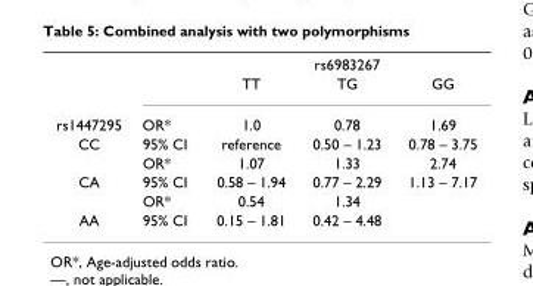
<table><thead><tr><td rowspan="2"></td><td rowspan="2"></td><td colspan="3">rs6983267</td></tr><tr><td>TT</td><td>TG</td><td>GG</td></tr></thead><tbody><tr><td>rs1447295</td><td>OR*</td><td>1.0</td><td>0.78</td><td>1.69</td></tr><tr><td rowspan="2">CC</td><td>95% CI</td><td>reference</td><td>0.50 – 1.23</td><td>0.78 – 3.75</td></tr><tr><td>OR*</td><td>1.07</td><td>1.33</td><td>2.74</td></tr><tr><td rowspan="2">CA</td><td>95% CI</td><td>0.58 – 1.94</td><td>0.77 – 2.29</td><td>1.13 – 7.17</td></tr><tr><td>OR*</td><td>0.54</td><td>1.34</td><td></td></tr><tr><td>AA</td><td>95% CI</td><td>0.15 – 1.81</td><td>0.42 – 4.48</td><td></td></tr></tbody></table>